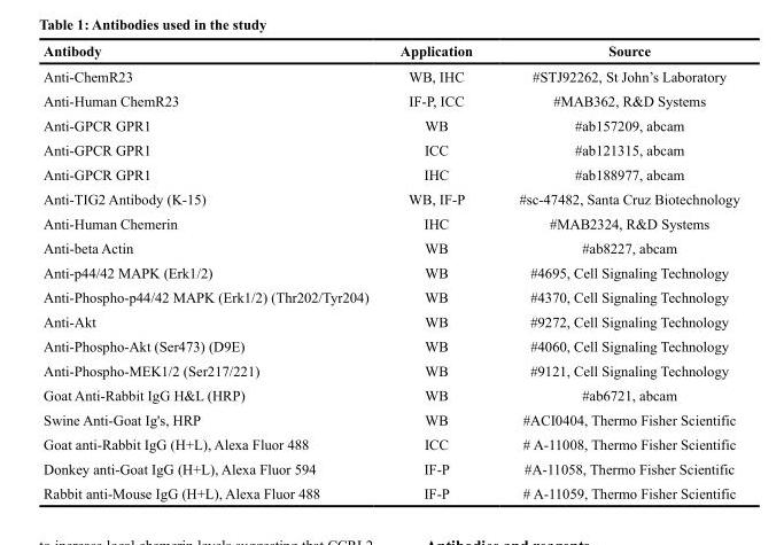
<table><thead><tr><td>Antibody</td><td>Application</td><td>Source</td></tr></thead><tbody><tr><td>Anti-ChemR23</td><td>WB, IHC</td><td>#STJ92262, St John’s Laboratory</td></tr><tr><td>Anti-Human ChemR23</td><td>IF-P, ICC</td><td>#MAB362, R&amp;D Systems</td></tr><tr><td>Anti-GPCR GPR1</td><td>WB</td><td>#ab157209, abcam</td></tr><tr><td>Anti-GPCR GPR1</td><td>ICC</td><td>#ab121315, abcam</td></tr><tr><td>Anti-GPCR GPR1</td><td>IHC</td><td>#ab188977, abcam</td></tr><tr><td>Anti-TIG2 Antibody (K-15)</td><td>WB, IF-P</td><td>#sc-47482, Santa Cruz Biotechnology</td></tr><tr><td>Anti-Human Chemerin</td><td>IHC</td><td>#MAB2324, R&amp;D Systems</td></tr><tr><td>Anti-beta Actin</td><td>WB</td><td>#ab8227, abcam</td></tr><tr><td>Anti-p44/42 MAPK (Erk1/2)</td><td>WB</td><td>#4695, Cell Signaling Technology</td></tr><tr><td>Anti-Phospho-p44/42 MAPK (Erk1/2) (Thr202/Tyr204)</td><td>WB</td><td>#4370, Cell Signaling Technology</td></tr><tr><td>Anti-Akt</td><td>WB</td><td>#9272, Cell Signaling Technology</td></tr><tr><td>Anti-Phospho-Akt (Ser473) (D9E)</td><td>WB</td><td>#4060, Cell Signaling Technology</td></tr><tr><td>Anti-Phospho-MEK1/2 (Ser217/221)</td><td>WB</td><td>#9121, Cell Signaling Technology</td></tr><tr><td>Goat Anti-Rabbit IgG H&amp;L (HRP)</td><td>WB</td><td>#ab6721, abcam</td></tr><tr><td>Swine Anti-Goat Ig&#x27;s, HRP</td><td>WB</td><td>#ACI0404, Thermo Fisher Scientific</td></tr><tr><td>Goat anti-Rabbit IgG (H+L), Alexa Fluor 488</td><td>ICC</td><td># A-11008, Thermo Fisher Scientific</td></tr><tr><td>Donkey anti-Goat IgG (H+L), Alexa Fluor 594</td><td>IF-P</td><td>#A-11058, Thermo Fisher Scientific</td></tr><tr><td>Rabbit anti-Mouse IgG (H+L), Alexa Fluor 488</td><td>IF-P</td><td># A-11059, Thermo Fisher Scientific</td></tr></tbody></table>